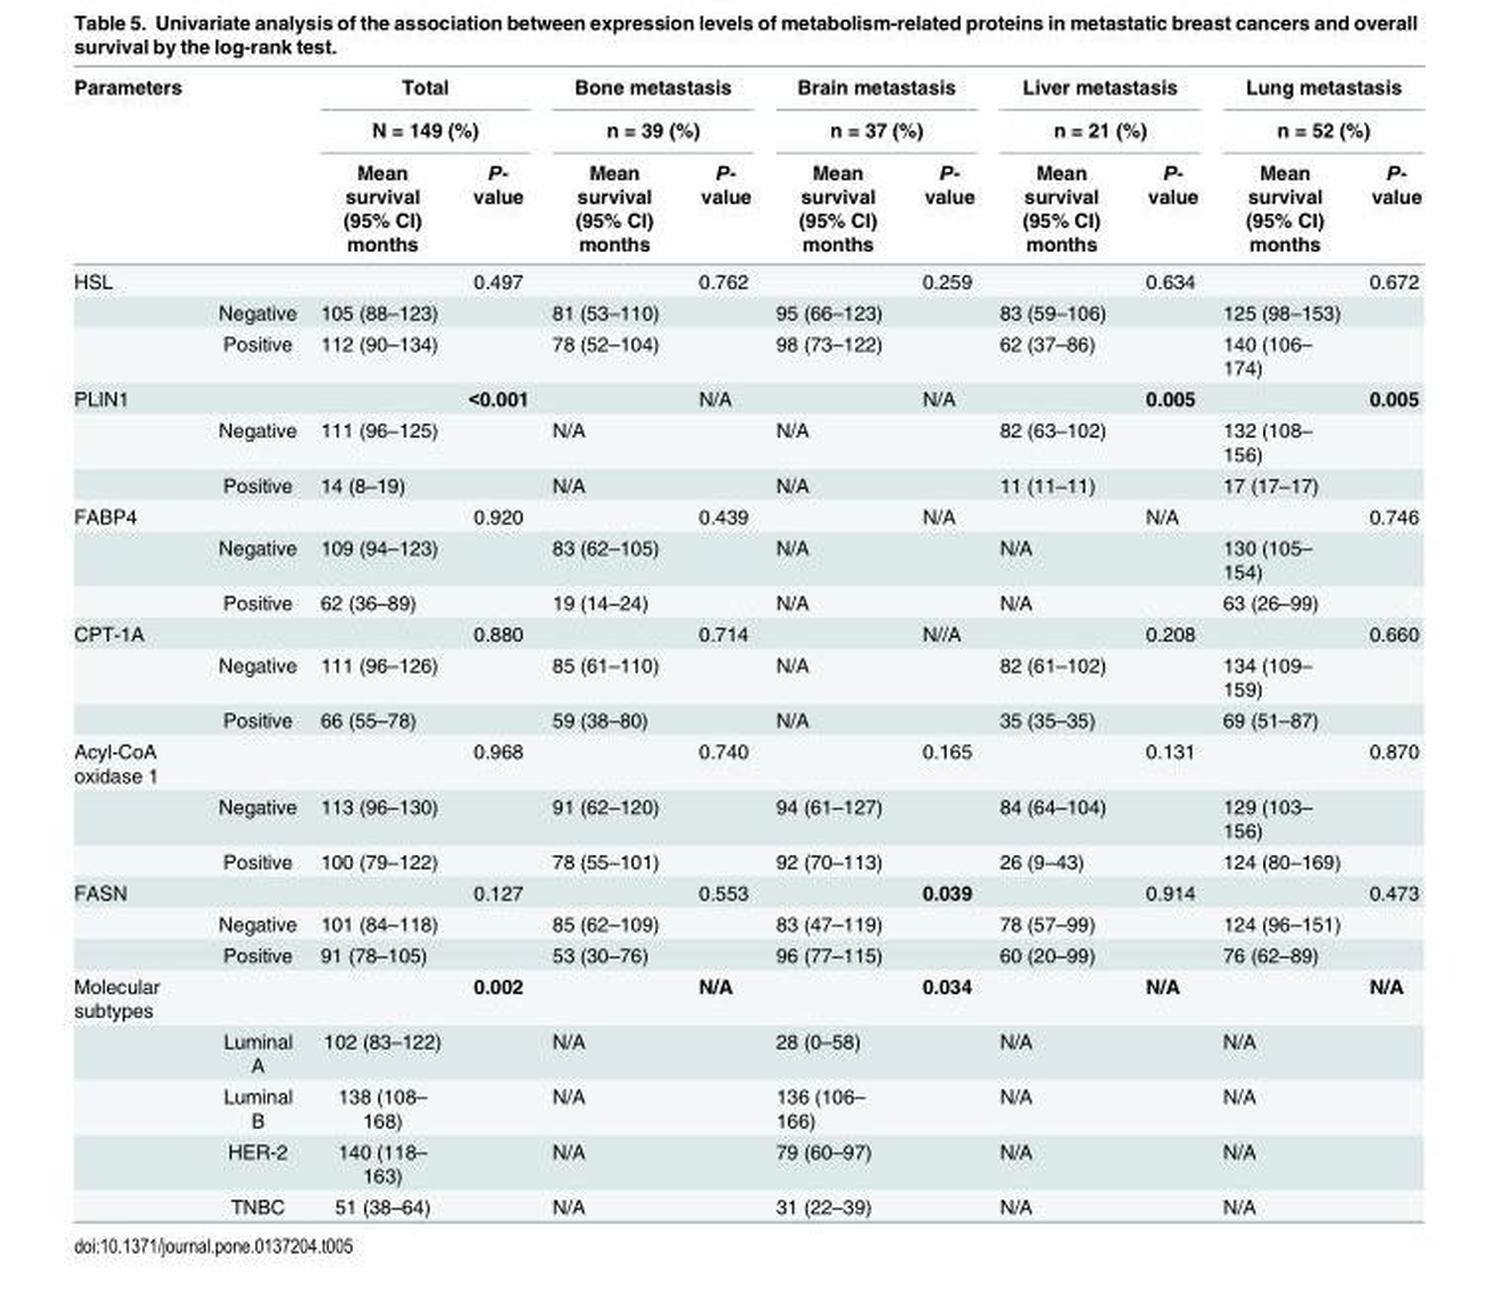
<table><thead><tr><td rowspan="3">Parameters</td><td rowspan="3"></td><td rowspan="2" colspan="2">Total N = 149 (%)</td><td rowspan="2" colspan="2">Bone metastasis n = 39 (%)</td><td rowspan="2" colspan="2">Brain metastasis n = 37 (%)</td><td rowspan="2" colspan="2">Liver metastasis n = 21 (%)</td><td rowspan="2" colspan="2">Lung metastasis n = 52 (%)</td></tr><tr></tr><tr><td>Mean survival (95% CI) months</td><td>P- value</td><td>Mean survival (95% CI) months</td><td>P- value</td><td>Mean survival (95% CI) months</td><td>P- value</td><td>Mean survival (95% CI) months</td><td>P- value</td><td>Mean survival (95% CI) months</td><td>P- value</td></tr></thead><tbody><tr><td rowspan="3">HSL</td><td></td><td></td><td>0.497</td><td></td><td>0.762</td><td></td><td>0.259</td><td></td><td>0.634</td><td></td><td>0.672</td></tr><tr><td>Negative</td><td>105 (88–123)</td><td></td><td>81 (53–110)</td><td></td><td>95 (66–123)</td><td></td><td>83 (59–106)</td><td></td><td>125 (98–153)</td><td></td></tr><tr><td>Positive</td><td>112 (90–134)</td><td></td><td>78 (52–104)</td><td></td><td>98 (73–122)</td><td></td><td>62 (37–86)</td><td></td><td>140 (106– 174)</td><td></td></tr><tr><td rowspan="3">PLIN1</td><td></td><td></td><td>&lt;0.001</td><td></td><td>N/A</td><td></td><td>N/A</td><td></td><td>0.005</td><td></td><td>0.005</td></tr><tr><td>Negative</td><td>111 (96–125)</td><td></td><td>N/A</td><td></td><td>N/A</td><td></td><td>82 (63–102)</td><td></td><td>132 (108– 156)</td><td></td></tr><tr><td>Positive</td><td>14 (8–19)</td><td></td><td>N/A</td><td></td><td>N/A</td><td></td><td>11 (11–11)</td><td></td><td>17 (17–17)</td><td></td></tr><tr><td rowspan="3">FABP4</td><td></td><td></td><td>0.920</td><td></td><td>0.439</td><td></td><td>N/A</td><td></td><td>N/A</td><td></td><td>0.746</td></tr><tr><td>Negative</td><td>109 (94–123)</td><td></td><td>83 (62–105)</td><td></td><td>N/A</td><td></td><td>N/A</td><td></td><td>130 (105– 154)</td><td></td></tr><tr><td>Positive</td><td>62 (36–89)</td><td></td><td>19 (14–24)</td><td></td><td>N/A</td><td></td><td>N/A</td><td></td><td>63 (26–99)</td><td></td></tr><tr><td rowspan="3">CPT-1A</td><td></td><td></td><td>0.880</td><td></td><td>0.714</td><td></td><td>N//A</td><td></td><td>0.208</td><td></td><td>0.660</td></tr><tr><td>Negative</td><td>111 (96–126)</td><td></td><td>85 (61–110)</td><td></td><td>N/A</td><td></td><td>82 (61–102)</td><td></td><td>134 (109– 159)</td><td></td></tr><tr><td>Positive</td><td>66 (55–78)</td><td></td><td>59 (38–80)</td><td></td><td>N/A</td><td></td><td>35 (35–35)</td><td></td><td>69 (51–87)</td><td></td></tr><tr><td rowspan="3">Acyl-CoA oxidase 1</td><td></td><td></td><td>0.968</td><td></td><td>0.740</td><td></td><td>0.165</td><td></td><td>0.131</td><td></td><td>0.870</td></tr><tr><td>Negative</td><td>113 (96–130)</td><td></td><td>91 (62–120)</td><td></td><td>94 (61–127)</td><td></td><td>84 (64–104)</td><td></td><td>129 (103– 156)</td><td></td></tr><tr><td>Positive</td><td>100 (79–122)</td><td></td><td>78 (55–101)</td><td></td><td>92 (70–113)</td><td></td><td>26 (9–43)</td><td></td><td>124 (80–169)</td><td></td></tr><tr><td rowspan="3">FASN</td><td></td><td></td><td>0.127</td><td></td><td>0.553</td><td></td><td>0.039</td><td></td><td>0.914</td><td></td><td>0.473</td></tr><tr><td>Negative</td><td>101 (84–118)</td><td></td><td>85 (62–109)</td><td></td><td>83 (47–119)</td><td></td><td>78 (57–99)</td><td></td><td>124 (96–151)</td><td></td></tr><tr><td>Positive</td><td>91 (78–105)</td><td></td><td>53 (30–76)</td><td></td><td>96 (77–115)</td><td></td><td>60 (20–99)</td><td></td><td>76 (62–89)</td><td></td></tr><tr><td rowspan="5">Molecular subtypes</td><td></td><td></td><td>0.002</td><td></td><td>N/A</td><td></td><td>0.034</td><td></td><td>N/A</td><td></td><td>N/A</td></tr><tr><td>Luminal A</td><td>102 (83–122)</td><td></td><td>N/A</td><td></td><td>28 (0–58)</td><td></td><td>N/A</td><td></td><td>N/A</td><td></td></tr><tr><td>Luminal B</td><td>138 (108– 168)</td><td></td><td>N/A</td><td></td><td>136 (106– 166)</td><td></td><td>N/A</td><td></td><td>N/A</td><td></td></tr><tr><td>HER-2</td><td>140 (118– 163)</td><td></td><td>N/A</td><td></td><td>79 (60–97)</td><td></td><td>N/A</td><td></td><td>N/A</td><td></td></tr><tr><td>TNBC</td><td>51 (38–64)</td><td></td><td>N/A</td><td></td><td>31 (22–39)</td><td></td><td>N/A</td><td></td><td>N/A</td><td></td></tr></tbody></table>